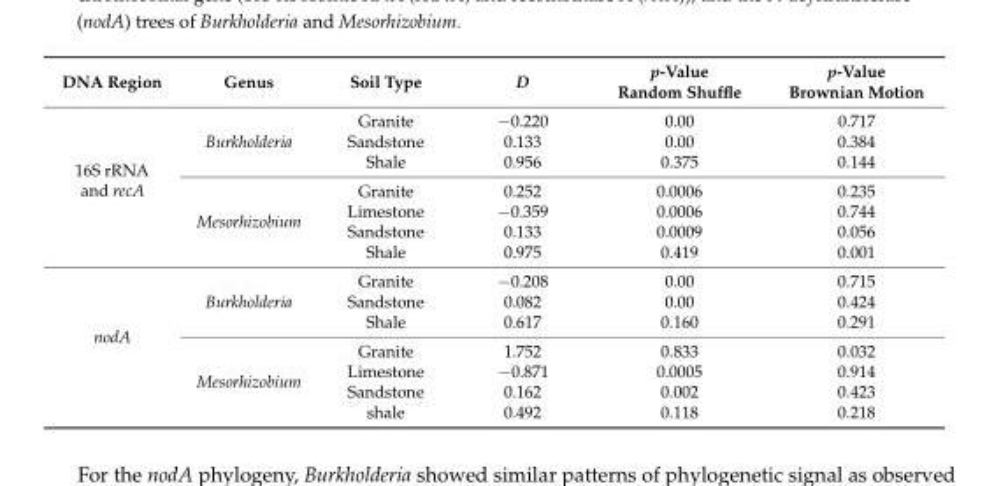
<table><thead><tr><td>DNA Region</td><td>Genus</td><td>Soil Type</td><td>D</td><td>p-Value Random Shuffle</td><td>p-Value Brownian Motion</td></tr></thead><tbody><tr><td rowspan="2">16S rRNA and recA</td><td>Burkholderia</td><td>Granite Sandstone Shale</td><td>−0.220 0.133 0.956</td><td>0.00 0.00 0.375</td><td>0.717 0.384 0.144</td></tr><tr><td>Mesorhizobium</td><td>Granite Limestone Sandstone Shale</td><td>0.252 −0.359 0.133 0.975</td><td>0.0006 0.0006 0.0009 0.419</td><td>0.235 0.744 0.056 0.001</td></tr><tr><td rowspan="2">nodA</td><td>Burkholderia</td><td>Granite Sandstone Shale</td><td>−0.208 0.082 0.617</td><td>0.00 0.00 0.160</td><td>0.715 0.424 0.291</td></tr><tr><td>Mesorhizobium</td><td>Granite Limestone Sandstone shale</td><td>1.752 −0.871 0.162 0.492</td><td>0.833 0.0005 0.002 0.118</td><td>0.032 0.914 0.423 0.218</td></tr></tbody></table>